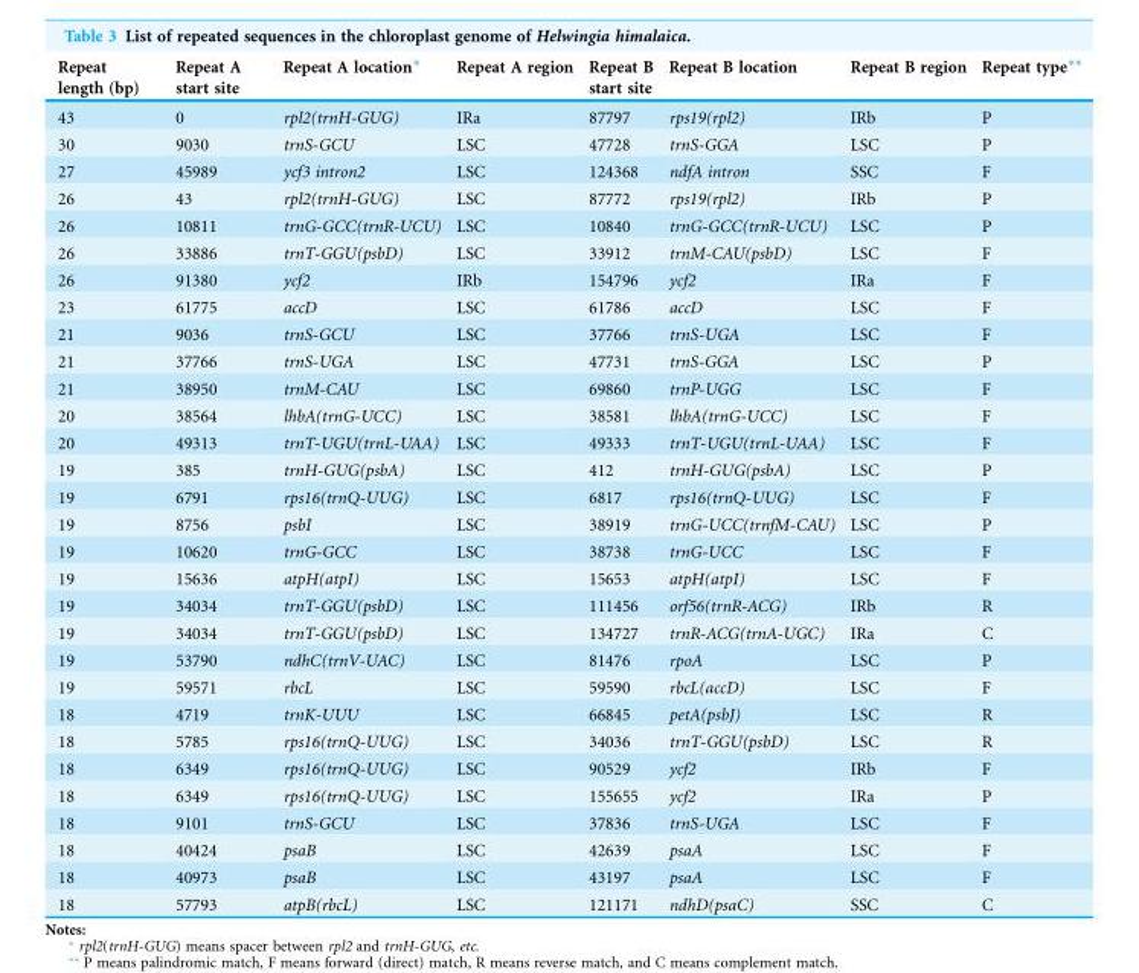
<table><thead><tr><td>Repeat length (bp)</td><td>Repeat A start site</td><td>Repeat A location*</td><td>Repeat A region</td><td>Repeat B start site</td><td>Repeat B location</td><td>Repeat B region</td><td>Repeat type**</td></tr></thead><tbody><tr><td>43</td><td>0</td><td>rpl2(trnH-GUG)</td><td>IRa</td><td>87797</td><td>rps19(rpl2)</td><td>IRb</td><td>P</td></tr><tr><td>30</td><td>9030</td><td>trnS-GCU</td><td>LSC</td><td>47728</td><td>trnS-GGA</td><td>LSC</td><td>P</td></tr><tr><td>27</td><td>45989</td><td>ycf3 intron2</td><td>LSC</td><td>124368</td><td>ndfA intron</td><td>SSC</td><td>F</td></tr><tr><td>26</td><td>43</td><td>rpl2(trnH-GUG)</td><td>LSC</td><td>87772</td><td>rps19(rpl2)</td><td>IRb</td><td>P</td></tr><tr><td>26</td><td>10811</td><td>trnG-GCC(trnR-UCU)</td><td>LSC</td><td>10840</td><td>trnG-GCC(trnR-UCU)</td><td>LSC</td><td>P</td></tr><tr><td>26</td><td>33886</td><td>trnT-GGU(psbD)</td><td>LSC</td><td>33912</td><td>trnM-CAU(psbD)</td><td>LSC</td><td>F</td></tr><tr><td>26</td><td>91380</td><td>ycf2</td><td>IRb</td><td>154796</td><td>ycf2</td><td>IRa</td><td>F</td></tr><tr><td>23</td><td>61775</td><td>accD</td><td>LSC</td><td>61786</td><td>accD</td><td>LSC</td><td>F</td></tr><tr><td>21</td><td>9036</td><td>trnS-GCU</td><td>LSC</td><td>37766</td><td>trnS-UGA</td><td>LSC</td><td>F</td></tr><tr><td>21</td><td>37766</td><td>trnS-UGA</td><td>LSC</td><td>47731</td><td>trnS-GGA</td><td>LSC</td><td>P</td></tr><tr><td>21</td><td>38950</td><td>trnM-CAU</td><td>LSC</td><td>69860</td><td>trnP-UGG</td><td>LSC</td><td>F</td></tr><tr><td>20</td><td>38564</td><td>lhbA(trnG-UCC)</td><td>LSC</td><td>38581</td><td>lhbA(trnG-UCC)</td><td>LSC</td><td>F</td></tr><tr><td>20</td><td>49313</td><td>trnT-UGU(trnL-UAA)</td><td>LSC</td><td>49333</td><td>trnT-UGU(trnL-UAA)</td><td>LSC</td><td>F</td></tr><tr><td>19</td><td>385</td><td>trnH-GUG(psbA)</td><td>LSC</td><td>412</td><td>trnH-GUG(psbA)</td><td>LSC</td><td>P</td></tr><tr><td>19</td><td>6791</td><td>rps16(trnQ-UUG)</td><td>LSC</td><td>6817</td><td>rps16(trnQ-UUG)</td><td>LSC</td><td>F</td></tr><tr><td>19</td><td>8756</td><td>psbI</td><td>LSC</td><td>38919</td><td>trnG-UCC(trnfM-CAU)</td><td>LSC</td><td>P</td></tr><tr><td>19</td><td>10620</td><td>trnG-GCC</td><td>LSC</td><td>38738</td><td>trnG-UCC</td><td>LSC</td><td>F</td></tr><tr><td>19</td><td>15636</td><td>atpH(atpI)</td><td>LSC</td><td>15653</td><td>atpH(atpI)</td><td>LSC</td><td>F</td></tr><tr><td>19</td><td>34034</td><td>trnT-GGU(psbD)</td><td>LSC</td><td>111456</td><td>orf56(trnR-ACG)</td><td>IRb</td><td>R</td></tr><tr><td>19</td><td>34034</td><td>trnT-GGU(psbD)</td><td>LSC</td><td>134727</td><td>trnR-ACG(trnA-UGC)</td><td>IRa</td><td>C</td></tr><tr><td>19</td><td>53790</td><td>ndhC(trnV-UAC)</td><td>LSC</td><td>81476</td><td>rpoA</td><td>LSC</td><td>P</td></tr><tr><td>19</td><td>59571</td><td>rbcL</td><td>LSC</td><td>59590</td><td>rbcL(accD)</td><td>LSC</td><td>F</td></tr><tr><td>18</td><td>4719</td><td>trnK-UUU</td><td>LSC</td><td>66845</td><td>petA(psbJ)</td><td>LSC</td><td>R</td></tr><tr><td>18</td><td>5785</td><td>rps16(trnQ-UUG)</td><td>LSC</td><td>34036</td><td>trnT-GGU(psbD)</td><td>LSC</td><td>R</td></tr><tr><td>18</td><td>6349</td><td>rps16(trnQ-UUG)</td><td>LSC</td><td>90529</td><td>ycf2</td><td>IRb</td><td>F</td></tr><tr><td>18</td><td>6349</td><td>rps16(trnQ-UUG)</td><td>LSC</td><td>155655</td><td>ycf2</td><td>IRa</td><td>P</td></tr><tr><td>18</td><td>9101</td><td>trnS-GCU</td><td>LSC</td><td>37836</td><td>trnS-UGA</td><td>LSC</td><td>F</td></tr><tr><td>18</td><td>40424</td><td>psaB</td><td>LSC</td><td>42639</td><td>psaA</td><td>LSC</td><td>F</td></tr><tr><td>18</td><td>40973</td><td>psaB</td><td>LSC</td><td>43197</td><td>psaA</td><td>LSC</td><td>F</td></tr><tr><td>18</td><td>57793</td><td>atpB(rbcL)</td><td>LSC</td><td>121171</td><td>ndhD(psaC)</td><td>SSC</td><td>C</td></tr></tbody></table>